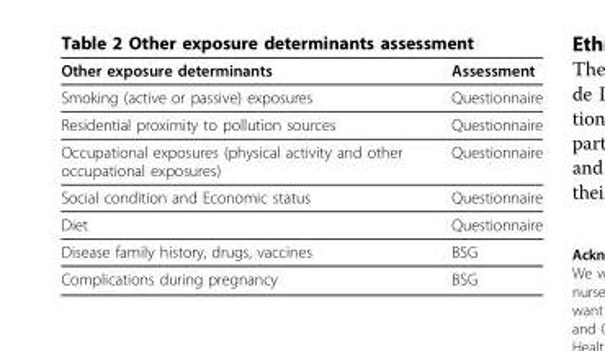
<table><thead><tr><td>Other exposure determinants</td><td>Assessment</td></tr></thead><tbody><tr><td>Smoking (active or passive) exposures</td><td>Questionnaire</td></tr><tr><td>Residential proximity to pollution sources</td><td>Questionnaire</td></tr><tr><td>Occupational exposures (physical activity and other occupational exposures)</td><td>Questionnaire</td></tr><tr><td>Social condition and Economic status</td><td>Questionnaire</td></tr><tr><td>Diet</td><td>Questionnaire</td></tr><tr><td>Disease family history, drugs, vaccines</td><td>BSG</td></tr><tr><td>Complications during pregnancy</td><td>BSG</td></tr></tbody></table>